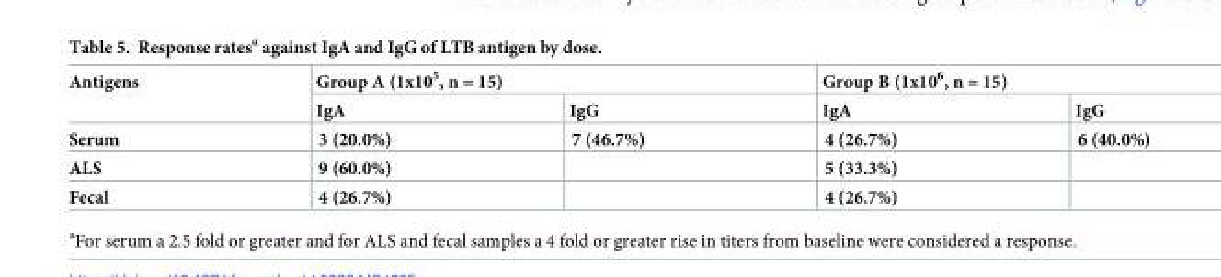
<table><thead><tr><td rowspan="2">Antigens</td><td colspan="2">Group A (1x10<sup>5</sup>, n = 15)</td><td colspan="2">Group B (1x10<sup>6</sup>, n = 15)</td></tr><tr><td>IgA</td><td>IgG</td><td>IgA</td><td>IgG</td></tr></thead><tbody><tr><td>Serum</td><td>3 (20.0%)</td><td>7 (46.7%)</td><td>4 (26.7%)</td><td>6 (40.0%)</td></tr><tr><td>ALS</td><td>9 (60.0%)</td><td></td><td>5 (33.3%)</td><td></td></tr><tr><td>Fecal</td><td>4 (26.7%)</td><td></td><td>4 (26.7%)</td><td></td></tr></tbody></table>